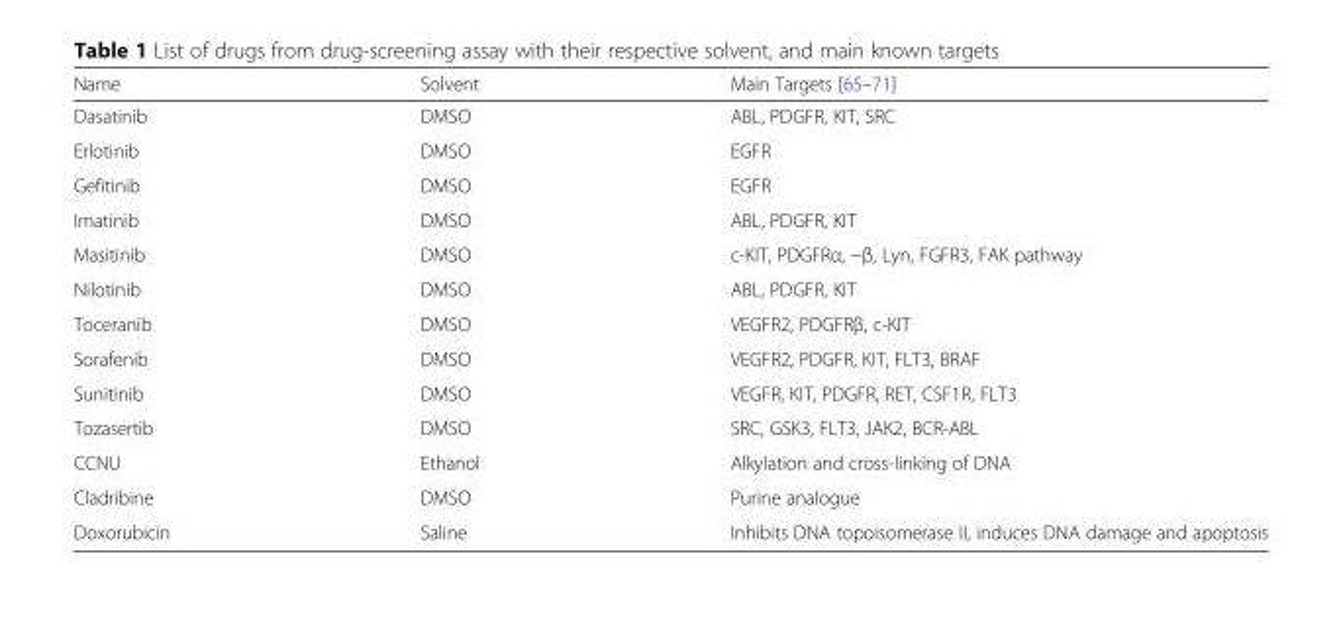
<table><thead><tr><td>Name</td><td>Solvent</td><td>Main Targets [65–71]</td></tr></thead><tbody><tr><td>Dasatinib</td><td>DMSO</td><td>ABL, PDGFR, KIT, SRC</td></tr><tr><td>Erlotinib</td><td>DMSO</td><td>EGFR</td></tr><tr><td>Gefitinib</td><td>DMSO</td><td>EGFR</td></tr><tr><td>Imatinib</td><td>DMSO</td><td>ABL, PDGFR, KIT</td></tr><tr><td>Masitinib</td><td>DMSO</td><td>c-KIT, PDGFRα, −β, Lyn, FGFR3, FAK pathway</td></tr><tr><td>Nilotinib</td><td>DMSO</td><td>ABL, PDGFR, KIT</td></tr><tr><td>Toceranib</td><td>DMSO</td><td>VEGFR2, PDGFRβ, c-KIT</td></tr><tr><td>Sorafenib</td><td>DMSO</td><td>VEGFR2, PDGFR, KIT, FLT3, BRAF</td></tr><tr><td>Sunitinib</td><td>DMSO</td><td>VEGFR, KIT, PDGFR, RET, CSF1R, FLT3</td></tr><tr><td>Tozasertib</td><td>DMSO</td><td>SRC, GSK3, FLT3, JAK2, BCR-ABL</td></tr><tr><td>CCNU</td><td>Ethanol</td><td>Alkylation and cross-linking of DNA</td></tr><tr><td>Cladribine</td><td>DMSO</td><td>Purine analogue</td></tr><tr><td>Doxorubicin</td><td>Saline</td><td>Inhibits DNA topoisomerase II, induces DNA damage and apoptosis</td></tr></tbody></table>